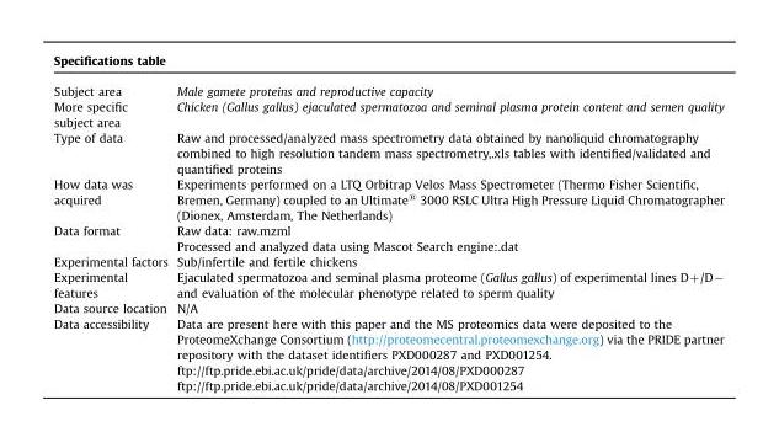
<table><tbody><tr><td colspan="2">Specifications table</td></tr><tr><td>Subject area</td><td>Male gamete proteins and reproductive capacity</td></tr><tr><td>More specific subject area</td><td>Chicken (Gallus gallus) ejaculated spermatozoa and seminal plasma protein content and semen quality</td></tr><tr><td>Type of data</td><td>Raw and processed/analyzed mass spectrometry data obtained by nanoliquid chromatography combined to high resolution tandem mass spectrometry,.xls tables with identified/validated and quantified proteins</td></tr><tr><td>How data was acquired</td><td>Experiments performed on a LTQ Orbitrap Velos Mass Spectrometer (Thermo Fisher Scientific, Bremen, Germany) coupled to an Ultimate<sup>®</sup> 3000 RSLC Ultra High Pressure Liquid Chromatographer (Dionex, Amsterdam, The Netherlands)</td></tr><tr><td rowspan="2">Data format</td><td>Raw data: raw.mzml</td></tr><tr><td>Processed and analyzed data using Mascot Search engine:.dat</td></tr><tr><td>Experimental factors</td><td>Sub/infertile and fertile chickens</td></tr><tr><td>Experimental features</td><td>Ejaculated spermatozoa and seminal plasma proteome (Gallus gallus) of experimental lines D+/D− and evaluation of the molecular phenotype related to sperm quality</td></tr><tr><td>Data source location</td><td>N/A</td></tr><tr><td rowspan="3">Data accessibility</td><td>Data are present here with this paper and the MS proteomics data were deposited to the ProteomeXchange Consortium (http://proteomecentral.proteomexchange.org) via the PRIDE partner repository with the dataset identifiers PXD000287 and PXD001254.</td></tr><tr><td>ftp://ftp.pride.ebi.ac.uk/pride/data/archive/2014/08/PXD000287</td></tr><tr><td>ftp://ftp.pride.ebi.ac.uk/pride/data/archive/2014/08/PXD001254</td></tr></tbody></table>